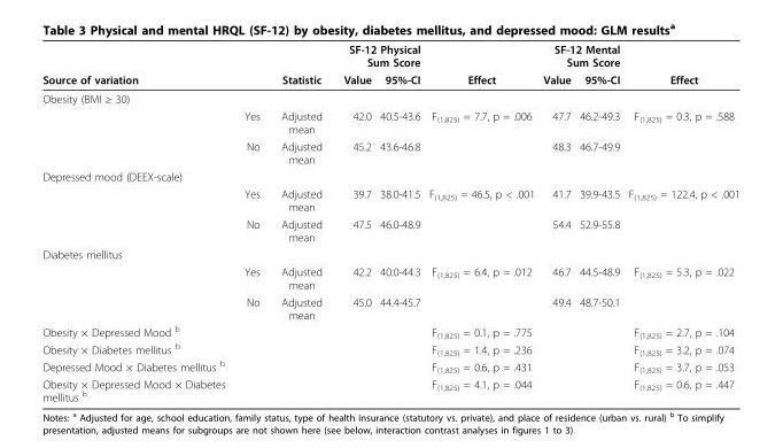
<table><thead><tr><td rowspan="2">Source of variation</td><td rowspan="2">Statistic</td><td colspan="2">SF-12 Physical Sum Score</td><td rowspan="2">Effect</td><td colspan="2">SF-12 Mental Sum Score</td><td rowspan="2">Effect</td></tr><tr><td>Value</td><td>95%-CI</td><td>Value</td><td>95%-CI</td></tr></thead><tbody><tr><td colspan="8">Obesity (BMI ≥ 30)</td></tr><tr><td>Yes</td><td>Adjusted mean</td><td>42.0</td><td>40.5-43.6</td><td>F<sub>(1,825)</sub> = 7.7, p = .006</td><td>47.7</td><td>46.2-49.3</td><td>F<sub>(1,825)</sub> = 0.3, p = .588</td></tr><tr><td>No</td><td>Adjusted mean</td><td>45.2</td><td>43.6-46.8</td><td></td><td>48.3</td><td>46.7-49.9</td><td></td></tr><tr><td colspan="8">Depressed mood (DEEX-scale)</td></tr><tr><td>Yes</td><td>Adjusted mean</td><td>39.7</td><td>38.0-41.5</td><td>F<sub>(1,825)</sub> = 46.5, p &lt; .001</td><td>41.7</td><td>39.9-43.5</td><td>F<sub>(1,825)</sub> = 122.4, p &lt; .001</td></tr><tr><td>No</td><td>Adjusted mean</td><td>47.5</td><td>46.0-48.9</td><td></td><td>54.4</td><td>52.9-55.8</td><td></td></tr><tr><td colspan="8">Diabetes mellitus</td></tr><tr><td>Yes</td><td>Adjusted mean</td><td>42.2</td><td>40.0-44.3</td><td>F<sub>(1,825)</sub> = 6.4, p = .012</td><td>46.7</td><td>44.5-48.9</td><td>F<sub>(1,825)</sub> = 5.3, p = .022</td></tr><tr><td>No</td><td>Adjusted mean</td><td>45.0</td><td>44.4-45.7</td><td></td><td>49.4</td><td>48.7-50.1</td><td></td></tr><tr><td>Obesity × Depressed Mood <sup>b</sup></td><td></td><td></td><td></td><td>F<sub>(1,825)</sub> = 0.1, p = .775</td><td></td><td></td><td>F<sub>(1,825)</sub> = 2.7, p = .104</td></tr><tr><td>Obesity × Diabetes mellitus <sup>b</sup></td><td></td><td></td><td></td><td>F<sub>(1,825)</sub> = 1.4, p = .236</td><td></td><td></td><td>F<sub>(1,825)</sub> = 3.2, p = .074</td></tr><tr><td>Depressed Mood × Diabetes mellitus <sup>b</sup></td><td></td><td></td><td></td><td>F<sub>(1,825)</sub> = 0.6, p = .431</td><td></td><td></td><td>F<sub>(1,825)</sub> = 3.7, p = .053</td></tr><tr><td>Obesity × Depressed Mood × Diabetes mellitus <sup>b</sup></td><td></td><td></td><td></td><td>F<sub>(1,825)</sub> = 4.1, p = .044</td><td></td><td></td><td>F<sub>(1,825)</sub> = 0.6, p = .447</td></tr></tbody></table>